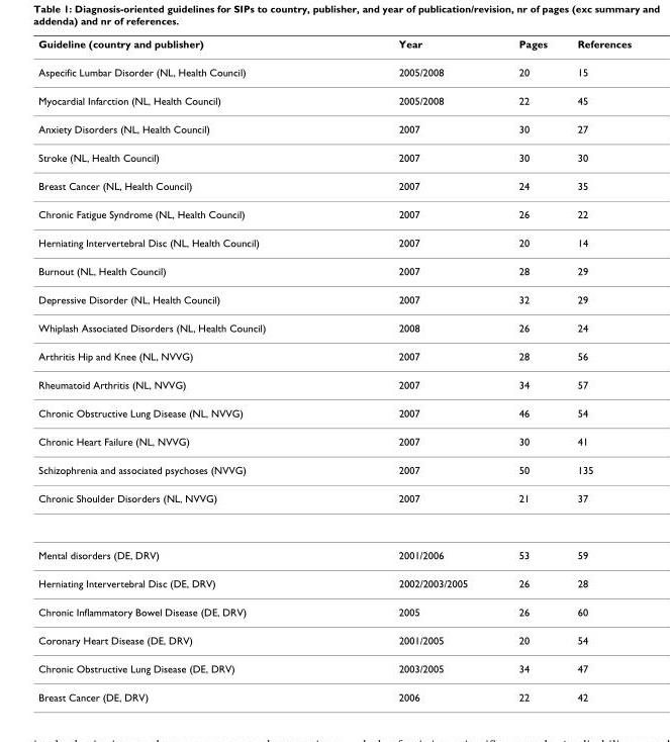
<table><thead><tr><td>Guideline (country and publisher)</td><td>Year</td><td>Pages</td><td>References</td></tr></thead><tbody><tr><td>Aspecific Lumbar Disorder (NL, Health Council)</td><td>2005/2008</td><td>20</td><td>15</td></tr><tr><td>Myocardial Infarction (NL, Health Council)</td><td>2005/2008</td><td>22</td><td>45</td></tr><tr><td>Anxiety Disorders (NL, Health Council)</td><td>2007</td><td>30</td><td>27</td></tr><tr><td>Stroke (NL, Health Council)</td><td>2007</td><td>30</td><td>30</td></tr><tr><td>Breast Cancer (NL, Health Council)</td><td>2007</td><td>24</td><td>35</td></tr><tr><td>Chronic Fatigue Syndrome (NL, Health Council)</td><td>2007</td><td>26</td><td>22</td></tr><tr><td>Herniating Intervertebral Disc (NL, Health Council)</td><td>2007</td><td>20</td><td>14</td></tr><tr><td>Burnout (NL, Health Council)</td><td>2007</td><td>28</td><td>29</td></tr><tr><td>Depressive Disorder (NL, Health Council)</td><td>2007</td><td>32</td><td>29</td></tr><tr><td>Whiplash Associated Disorders (NL, Health Council)</td><td>2008</td><td>26</td><td>24</td></tr><tr><td>Arthritis Hip and Knee (NL, NVVG)</td><td>2007</td><td>28</td><td>56</td></tr><tr><td>Rheumatoid Arthritis (NL, NVVG)</td><td>2007</td><td>34</td><td>57</td></tr><tr><td>Chronic Obstructive Lung Disease (NL, NVVG)</td><td>2007</td><td>46</td><td>54</td></tr><tr><td>Chronic Heart Failure (NL, NVVG)</td><td>2007</td><td>30</td><td>41</td></tr><tr><td>Schizophrenia and associated psychoses (NVVG)</td><td>2007</td><td>50</td><td>135</td></tr><tr><td>Chronic Shoulder Disorders (NL, NVVG)</td><td>2007</td><td>21</td><td>37</td></tr><tr><td>Mental disorders (DE, DRV)</td><td>2001/2006</td><td>53</td><td>59</td></tr><tr><td>Herniating Intervertebral Disc (DE, DRV)</td><td>2002/2003/2005</td><td>26</td><td>28</td></tr><tr><td>Chronic Inflammatory Bowel Disease (DE, DRV)</td><td>2005</td><td>26</td><td>60</td></tr><tr><td>Coronary Heart Disease (DE, DRV)</td><td>2001/2005</td><td>20</td><td>54</td></tr><tr><td>Chronic Obstructive Lung Disease (DE, DRV)</td><td>2003/2005</td><td>34</td><td>47</td></tr><tr><td>Breast Cancer (DE, DRV)</td><td>2006</td><td>22</td><td>42</td></tr></tbody></table>